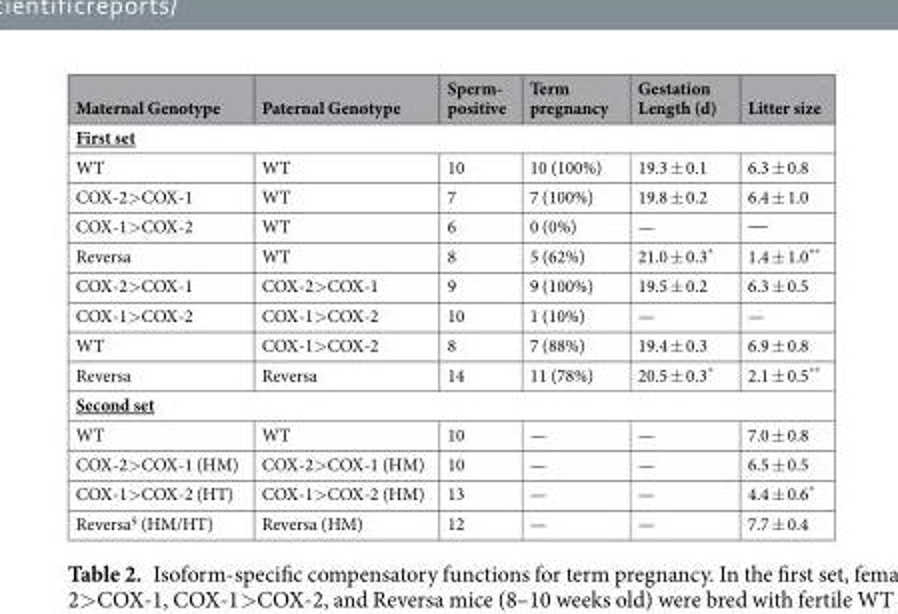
<table><thead><tr><td>Maternal Genotype</td><td>Paternal Genotype</td><td>Sperm- positive</td><td>Term pregnancy</td><td>Gestation Length (d)</td><td>Litter size</td></tr></thead><tbody><tr><td colspan="6">First set</td></tr><tr><td>WT</td><td>WT</td><td>10</td><td>10 (100%)</td><td>19.3 ± 0.1</td><td>6.3 ± 0.8</td></tr><tr><td>COX-2&gt;COX-1</td><td>WT</td><td>7</td><td>7 (100%)</td><td>19.8 ± 0.2</td><td>6.4 ± 1.0</td></tr><tr><td>COX-1&gt;COX-2</td><td>WT</td><td>6</td><td>0 (0%)</td><td>—</td><td>̶</td></tr><tr><td>Reversa</td><td>WT</td><td>8</td><td>5 (62%)</td><td>21.0 ± 0.3*</td><td>1.4 ± 1.0**</td></tr><tr><td>COX-2&gt;COX-1</td><td>COX-2&gt;COX-1</td><td>9</td><td>9 (100%)</td><td>19.5 ± 0.2</td><td>6.3 ± 0.5</td></tr><tr><td>COX-1&gt;COX-2</td><td>COX-1&gt;COX-2</td><td>10</td><td>1 (10%)</td><td>—</td><td>—</td></tr><tr><td>WT</td><td>COX-1&gt;COX-2</td><td>8</td><td>7 (88%)</td><td>19.4 ± 0.3</td><td>6.9 ± 0.8</td></tr><tr><td>Reversa</td><td>Reversa</td><td>14</td><td>11 (78%)</td><td>20.5 ± 0.3*</td><td>2.1 ± 0.5**</td></tr><tr><td colspan="6">Second set</td></tr><tr><td>WT</td><td>WT</td><td>10</td><td>—</td><td>—</td><td>7.0 ± 0.8</td></tr><tr><td>COX-2&gt;COX-1 (HM)</td><td>COX-2&gt;COX-1 (HM)</td><td>10</td><td>—</td><td>—</td><td>6.5 ± 0.5</td></tr><tr><td>COX-1&gt;COX-2 (HT)</td><td>COX-1&gt;COX-2 (HM)</td><td>13</td><td>—</td><td>—</td><td>4.4 ± 0.6*</td></tr><tr><td>Reversa<sup>§</sup> (HM/HT)</td><td>Reversa (HM)</td><td>12</td><td>—</td><td>—</td><td>7.7 ± 0.4</td></tr></tbody></table>